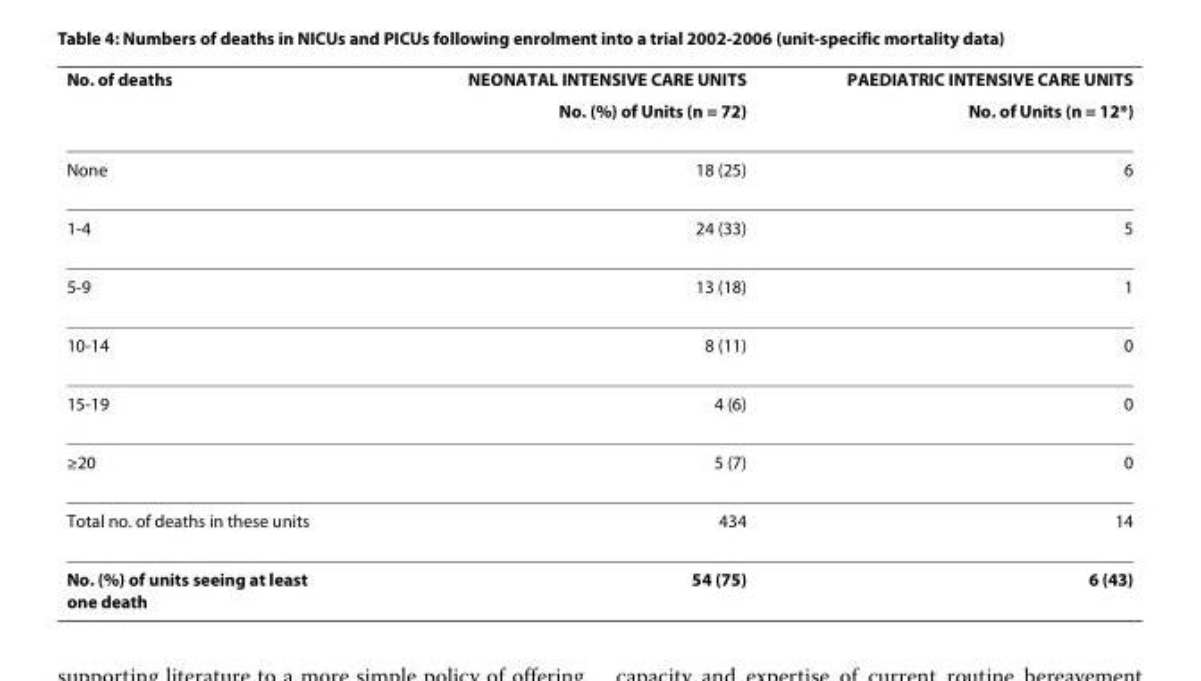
<table><thead><tr><td rowspan="2">No. of deaths</td><td rowspan="2">NEONATAL INTENSIVE CARE UNITS No. (%) of Units (n = 72)</td><td rowspan="2">PAEDIATRIC INTENSIVE CARE UNITS No. of Units (n = 12*)</td></tr><tr></tr></thead><tbody><tr><td>None</td><td>18 (25)</td><td>6</td></tr><tr><td>1-4</td><td>24 (33)</td><td>5</td></tr><tr><td>5-9</td><td>13 (18)</td><td>1</td></tr><tr><td>10-14</td><td>8 (11)</td><td>0</td></tr><tr><td>15-19</td><td>4 (6)</td><td>0</td></tr><tr><td>≥20</td><td>5 (7)</td><td>0</td></tr><tr><td>Total no. of deaths in these units</td><td>434</td><td>14</td></tr><tr><td>No. (%) of units seeing at least one death</td><td>54 (75)</td><td>6 (43)</td></tr></tbody></table>